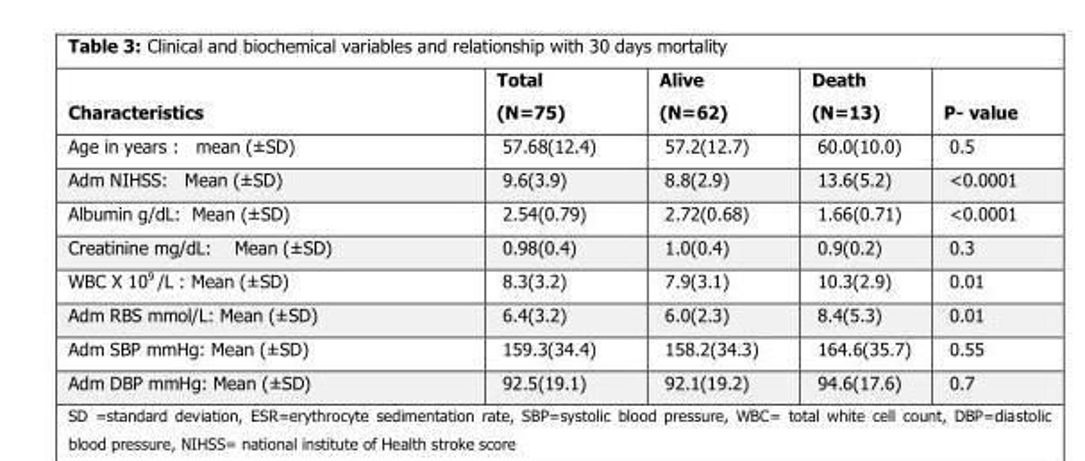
<table><thead><tr><td>Characteristics</td><td>Total (N=75)</td><td>Alive (N=62)</td><td>Death (N=13)</td><td>P- value</td></tr></thead><tbody><tr><td>Age in years : mean (±SD)</td><td>57.68(12.4)</td><td>57.2(12.7)</td><td>60.0(10.0)</td><td>0.5</td></tr><tr><td>Adm NIHSS: Mean (±SD)</td><td>9.6(3.9)</td><td>8.8(2.9)</td><td>13.6(5.2)</td><td>&lt;0.0001</td></tr><tr><td>Albumin g/dL: Mean (±SD)</td><td>2.54(0.79)</td><td>2.72(0.68)</td><td>1.66(0.71)</td><td>&lt;0.0001</td></tr><tr><td>Creatinine mg/dL: Mean (±SD)</td><td>0.98(0.4)</td><td>1.0(0.4)</td><td>0.9(0.2)</td><td>0.3</td></tr><tr><td>WBC X 10<sup>9</sup> /L : Mean (±SD)</td><td>8.3(3.2)</td><td>7.9(3.1)</td><td>10.3(2.9)</td><td>0.01</td></tr><tr><td>Adm RBS mmol/L: Mean (±SD)</td><td>6.4(3.2)</td><td>6.0(2.3)</td><td>8.4(5.3)</td><td>0.01</td></tr><tr><td>Adm SBP mmHg: Mean (±SD)</td><td>159.3(34.4)</td><td>158.2(34.3)</td><td>164.6(35.7)</td><td>0.55</td></tr><tr><td>Adm DBP mmHg: Mean (±SD)</td><td>92.5(19.1)</td><td>92.1(19.2)</td><td>94.6(17.6)</td><td>0.7</td></tr></tbody></table>